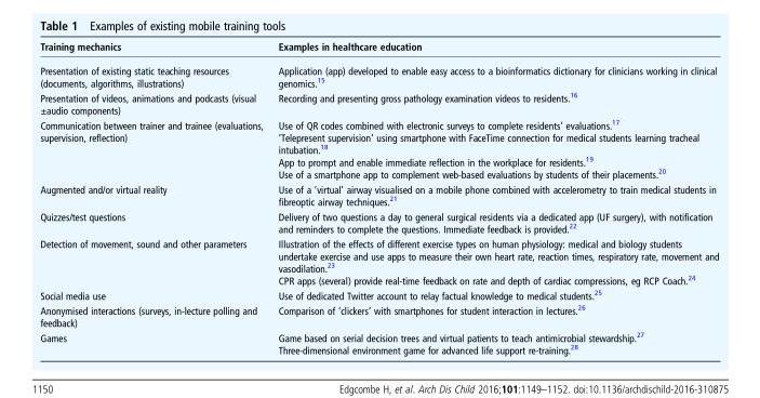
<table><thead><tr><td>Training mechanics</td><td>Examples in healthcare education</td></tr></thead><tbody><tr><td>Presentation of existing static teaching resources (documents, algorithms, illustrations)</td><td>Application (app) developed to enable easy access to a bioinformatics dictionary for clinicians working in clinical genomics.<sup>15</sup></td></tr><tr><td>Presentation of videos, animations and podcasts (visual ±audio components)</td><td>Recording and presenting gross pathology examination videos to residents.<sup>16</sup></td></tr><tr><td>Communication between trainer and trainee (evaluations, supervision, reflection)</td><td>Use of QR codes combined with electronic surveys to complete residents’ evaluations.<sup>17</sup> ‘Telepresent supervision’ using smartphone with FaceTime connection for medical students learning tracheal intubation.<sup>18</sup> App to prompt and enable immediate reflection in the workplace for residents.<sup>19</sup> Use of a smartphone app to complement web-based evaluations by students of their placements.<sup>20</sup></td></tr><tr><td>Augmented and/or virtual reality</td><td>Use of a ‘virtual’ airway visualised on a mobile phone combined with accelerometry to train medical students in fibreoptic airway techniques.<sup>21</sup></td></tr><tr><td>Quizzes/test questions</td><td>Delivery of two questions a day to general surgical residents via a dedicated app (UF surgery), with notification and reminders to complete the questions. Immediate feedback is provided.<sup>22</sup></td></tr><tr><td>Detection of movement, sound and other parameters</td><td>Illustration of the effects of different exercise types on human physiology: medical and biology students undertake exercise and use apps to measure their own heart rate, reaction times, respiratory rate, movement and vasodilation.<sup>23</sup> CPR apps (several) provide real-time feedback on rate and depth of cardiac compressions, eg RCP Coach.<sup>24</sup></td></tr><tr><td>Social media use</td><td>Use of dedicated Twitter account to relay factual knowledge to medical students.<sup>25</sup></td></tr><tr><td>Anonymised interactions (surveys, in-lecture polling and feedback)</td><td>Comparison of ‘clickers’ with smartphones for student interaction in lectures.<sup>26</sup></td></tr><tr><td>Games</td><td>Game based on serial decision trees and virtual patients to teach antimicrobial stewardship.<sup>27</sup> Three-dimensional environment game for advanced life support re-training.<sup>28</sup></td></tr></tbody></table>